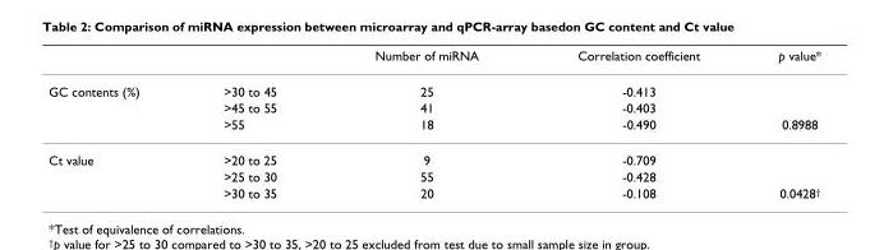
<table><thead><tr><td></td><td></td><td>Number of miRNA</td><td>Correlation coefficient</td><td>p value*</td></tr></thead><tbody><tr><td rowspan="3">GC contents (%)</td><td>&gt;30 to 45</td><td>25</td><td>-0.413</td><td></td></tr><tr><td>&gt;45 to 55</td><td>41</td><td>-0.403</td><td></td></tr><tr><td>&gt;55</td><td>18</td><td>-0.490</td><td>0.8988</td></tr><tr><td rowspan="3">Ct value</td><td>&gt;20 to 25</td><td>9</td><td>-0.709</td><td></td></tr><tr><td>&gt;25 to 30</td><td>55</td><td>-0.428</td><td></td></tr><tr><td>&gt;30 to 35</td><td>20</td><td>-0.108</td><td>0.0428<sup>†</sup></td></tr></tbody></table>